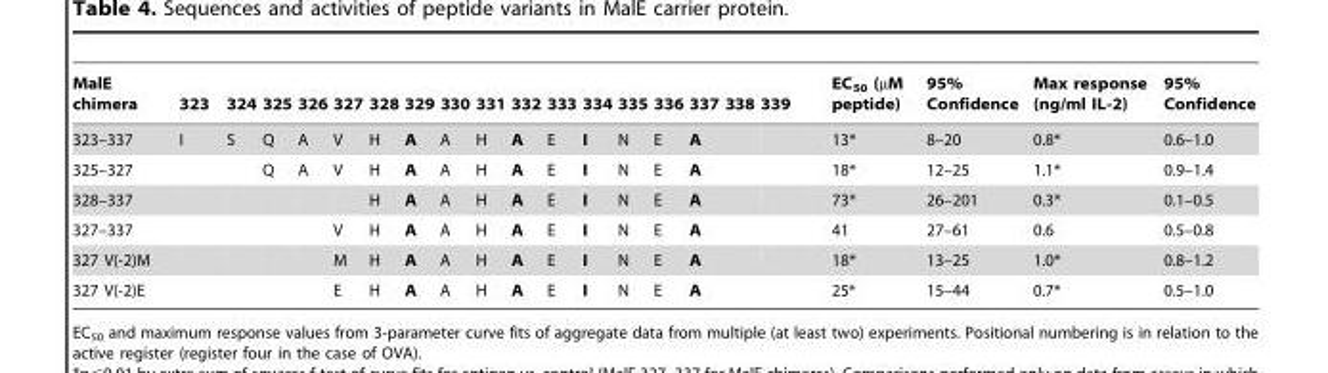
<table><thead><tr><td>MalE chimera</td><td>323</td><td>324</td><td>325</td><td>326</td><td>327</td><td>328</td><td>329</td><td>330</td><td>331</td><td>332</td><td>333</td><td>334</td><td>335</td><td>336</td><td>337</td><td>338</td><td>339</td><td>EC<sub>50</sub> (µM peptide)</td><td>95% Confidence</td><td>Max response (ng/ml IL-2)</td><td>95% Confidence</td></tr></thead><tbody><tr><td>323–337</td><td>I</td><td>S</td><td>Q</td><td>A</td><td>V</td><td>H</td><td>A</td><td>A</td><td>H</td><td>A</td><td>E</td><td>I</td><td>N</td><td>E</td><td>A</td><td></td><td></td><td>13*</td><td>8–20</td><td>0.8*</td><td>0.6–1.0</td></tr><tr><td>325–327</td><td></td><td></td><td>Q</td><td>A</td><td>V</td><td>H</td><td>A</td><td>A</td><td>H</td><td>A</td><td>E</td><td>I</td><td>N</td><td>E</td><td>A</td><td></td><td></td><td>18*</td><td>12–25</td><td>1.1*</td><td>0.9–1.4</td></tr><tr><td>328–337</td><td></td><td></td><td></td><td></td><td></td><td>H</td><td>A</td><td>A</td><td>H</td><td>A</td><td>E</td><td>I</td><td>N</td><td>E</td><td>A</td><td></td><td></td><td>73*</td><td>26–201</td><td>0.3*</td><td>0.1–0.5</td></tr><tr><td>327–337</td><td></td><td></td><td></td><td></td><td>V</td><td>H</td><td>A</td><td>A</td><td>H</td><td>A</td><td>E</td><td>I</td><td>N</td><td>E</td><td>A</td><td></td><td></td><td>41</td><td>27–61</td><td>0.6</td><td>0.5–0.8</td></tr><tr><td>327 V(-2)M</td><td></td><td></td><td></td><td></td><td>M</td><td>H</td><td>A</td><td>A</td><td>H</td><td>A</td><td>E</td><td>I</td><td>N</td><td>E</td><td>A</td><td></td><td></td><td>18*</td><td>13–25</td><td>1.0*</td><td>0.8–1.2</td></tr><tr><td>327 V(-2)E</td><td></td><td></td><td></td><td></td><td>E</td><td>H</td><td>A</td><td>A</td><td>H</td><td>A</td><td>E</td><td>I</td><td>N</td><td>E</td><td>A</td><td></td><td></td><td>25*</td><td>15–44</td><td>0.7*</td><td>0.5–1.0</td></tr></tbody></table>